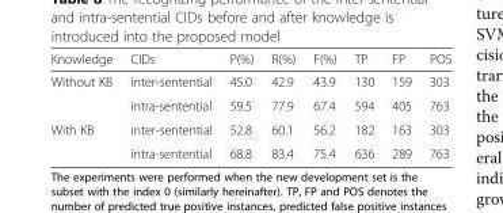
<table><thead><tr><td>Knowledge</td><td>CIDs</td><td>P(%)</td><td>R(%)</td><td>F(%)</td><td>TP</td><td>FP</td><td>POS</td></tr></thead><tbody><tr><td rowspan="2">Without KB</td><td>inter-sentential</td><td>45.0</td><td>42.9</td><td>43.9</td><td>130</td><td>159</td><td>303</td></tr><tr><td>intra-sentential</td><td>59.5</td><td>77.9</td><td>67.4</td><td>594</td><td>405</td><td>763</td></tr><tr><td rowspan="2">With KB</td><td>inter-sentential</td><td>52.8</td><td>60.1</td><td>56.2</td><td>182</td><td>163</td><td>303</td></tr><tr><td>intra-sentential</td><td>68.8</td><td>83.4</td><td>75.4</td><td>636</td><td>289</td><td>763</td></tr></tbody></table>